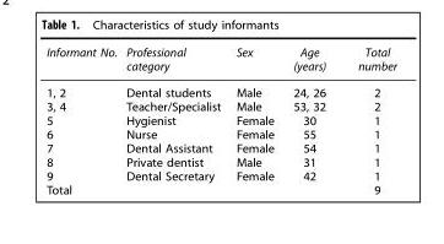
<table><thead><tr><td>Informant No.</td><td>Professional category</td><td>Sex</td><td>Age (years)</td><td>Total number</td></tr></thead><tbody><tr><td>1, 2</td><td>Dental students</td><td>Male</td><td>24, 26</td><td>2</td></tr><tr><td>3, 4</td><td>Teacher/Specialist</td><td>Male</td><td>53, 32</td><td>2</td></tr><tr><td>5</td><td>Hygienist</td><td>Female</td><td>30</td><td>1</td></tr><tr><td>6</td><td>Nurse</td><td>Female</td><td>55</td><td>1</td></tr><tr><td>7</td><td>Dental Assistant</td><td>Female</td><td>54</td><td>1</td></tr><tr><td>8</td><td>Private dentist</td><td>Male</td><td>31</td><td>1</td></tr><tr><td>9</td><td>Dental Secretary</td><td>Female</td><td>42</td><td>1</td></tr><tr><td>Total</td><td></td><td></td><td></td><td>9</td></tr></tbody></table>